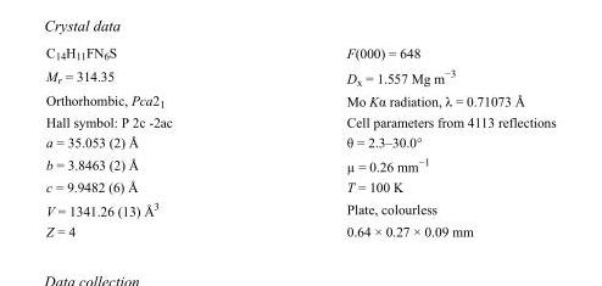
<table><tbody><tr><td>C<sub>14</sub>H<sub>11</sub>FN<sub>6</sub>S</td><td>F(000) = 648</td></tr><tr><td>M<sub>r</sub> = 314.35</td><td>D<sub>x</sub> = 1.557 Mg m<sup>−3</sup></td></tr><tr><td>Orthorhombic, Pca2<sub>1</sub></td><td>Mo Kα radiation, λ = 0.71073 Å</td></tr><tr><td>Hall symbol: P 2c -2ac</td><td>Cell parameters from 4113 reflections</td></tr><tr><td>a = 35.053 (2) Å</td><td>θ = 2.3–30.0°</td></tr><tr><td>b = 3.8463 (2) Å</td><td>µ = 0.26 mm<sup>−1</sup></td></tr><tr><td>c = 9.9482 (6) Å</td><td>T = 100 K</td></tr><tr><td>V = 1341.26 (13) Å<sup>3</sup></td><td>Plate, colourless</td></tr><tr><td>Z = 4</td><td>0.64 × 0.27 × 0.09 mm</td></tr></tbody></table>